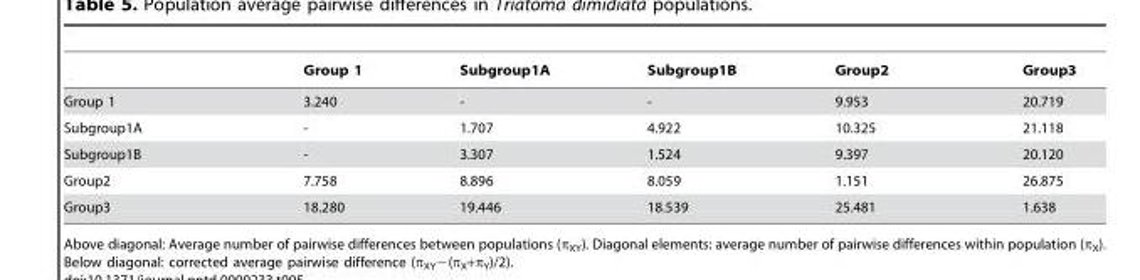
<table><thead><tr><td></td><td>Group 1</td><td>Subgroup1A</td><td>Subgroup1B</td><td>Group2</td><td>Group3</td></tr></thead><tbody><tr><td>Group 1</td><td>3.240</td><td>-</td><td>-</td><td>9.953</td><td>20.719</td></tr><tr><td>Subgroup1A</td><td>-</td><td>1.707</td><td>4.922</td><td>10.325</td><td>21.118</td></tr><tr><td>Subgroup1B</td><td>-</td><td>3.307</td><td>1.524</td><td>9.397</td><td>20.120</td></tr><tr><td>Group2</td><td>7.758</td><td>8.896</td><td>8.059</td><td>1.151</td><td>26.875</td></tr><tr><td>Group3</td><td>18.280</td><td>19.446</td><td>18.539</td><td>25.481</td><td>1.638</td></tr></tbody></table>